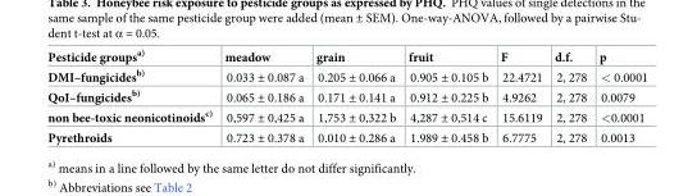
<table><thead><tr><td>Pesticide groups<sup>a)</sup></td><td>meadow</td><td>grain</td><td>fruit</td><td>F</td><td>d.f.</td><td>p</td></tr></thead><tbody><tr><td>DMI–fungicides<sup>b)</sup></td><td>0.033 ± 0.087 a</td><td>0.205 ± 0.066 a</td><td>0.905 ± 0.105 b</td><td>22.4721</td><td>2, 278</td><td>&lt; 0.0001</td></tr><tr><td>QoI–fungicides<sup>b)</sup></td><td>0.065 ± 0.186 a</td><td>0.171 ± 0.141 a</td><td>0.912 ± 0.225 b</td><td>4.9262</td><td>2, 278</td><td>0.0079</td></tr><tr><td>non bee-toxic neonicotinoids<sup>c)</sup></td><td>0,597 ± 0,425 a</td><td>1,753 ± 0,322 b</td><td>4,287 ± 0,514 c</td><td>15.6119</td><td>2, 278</td><td>&lt;0.0001</td></tr><tr><td>Pyrethroids</td><td>0.723 ± 0.378 a</td><td>0.010 ± 0.286 a</td><td>1.989 ± 0.458 b</td><td>6.7775</td><td>2, 278</td><td>0.0013</td></tr></tbody></table>